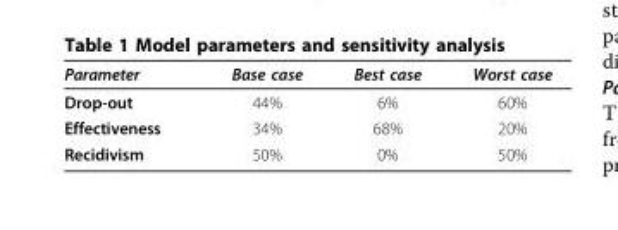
<table><thead><tr><td>Parameter</td><td>Base case</td><td>Best case</td><td>Worst case</td></tr></thead><tbody><tr><td>Drop-out</td><td>44%</td><td>6%</td><td>60%</td></tr><tr><td>Effectiveness</td><td>34%</td><td>68%</td><td>20%</td></tr><tr><td>Recidivism</td><td>50%</td><td>0%</td><td>50%</td></tr></tbody></table>